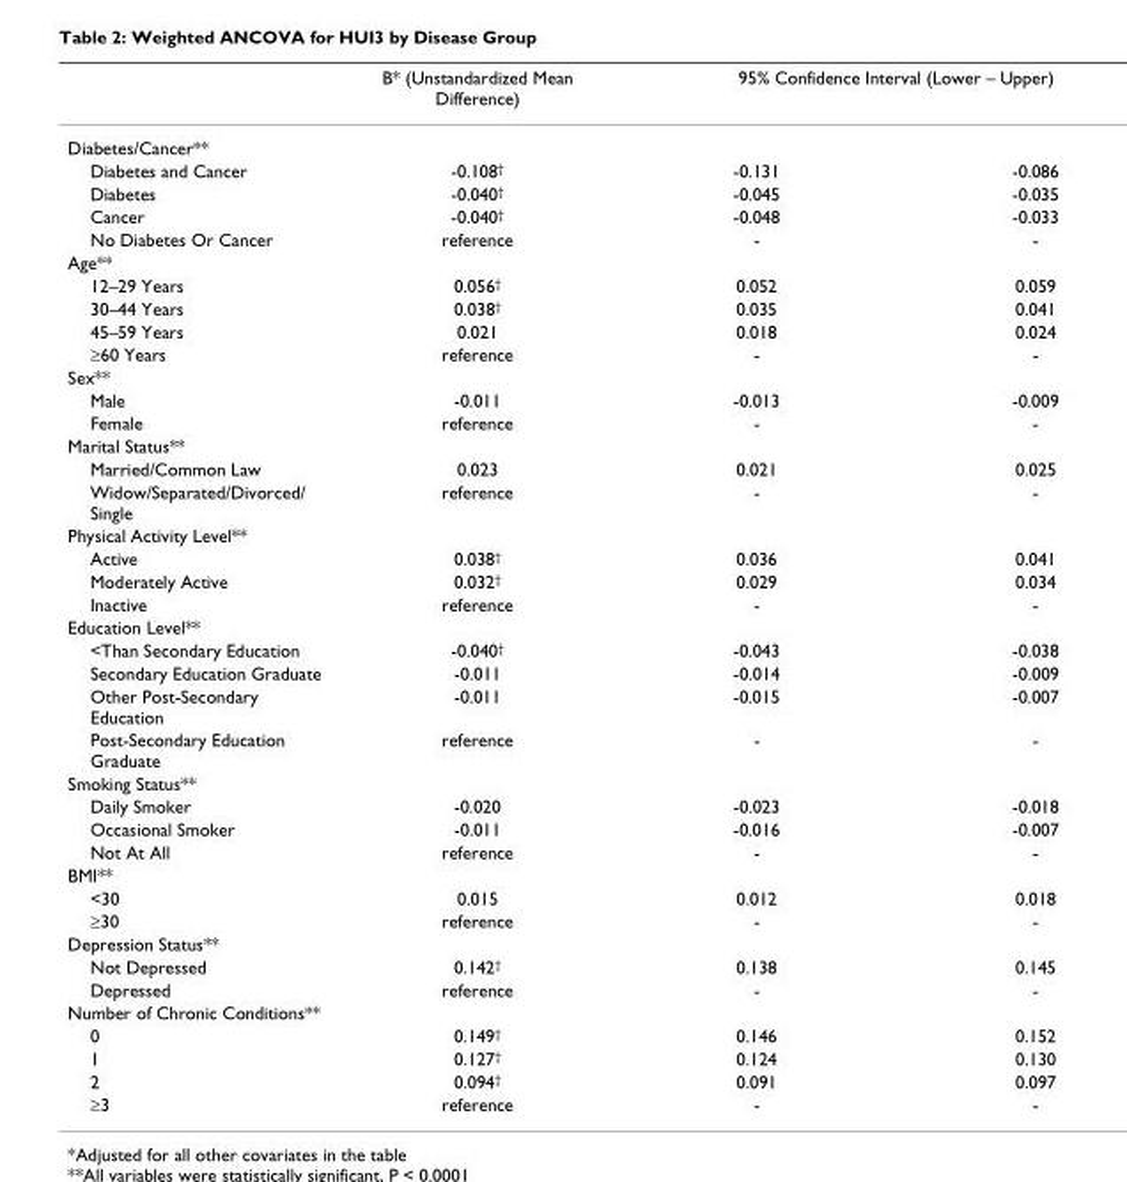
<table><thead><tr><td rowspan="2">Diabetes/Cancer**</td><td rowspan="2">B* (Unstandardized Mean Difference)</td><td colspan="2">95% Confidence Interval (Lower – Upper)</td></tr><tr><td></td><td></td></tr></thead><tbody><tr><td>Diabetes and Cancer</td><td>-0.108<sup>†</sup></td><td>-0.131</td><td>-0.086</td></tr><tr><td>Diabetes</td><td>-0.040<sup>†</sup></td><td>-0.045</td><td>-0.035</td></tr><tr><td>Cancer</td><td>-0.040<sup>†</sup></td><td>-0.048</td><td>-0.033</td></tr><tr><td>No Diabetes Or Cancer</td><td>reference</td><td>-</td><td>-</td></tr><tr><td colspan="4">Age**</td></tr><tr><td>12–29 Years</td><td>0.056<sup>†</sup></td><td>0.052</td><td>0.059</td></tr><tr><td>30–44 Years</td><td>0.038<sup>†</sup></td><td>0.035</td><td>0.041</td></tr><tr><td>45–59 Years</td><td>0.021</td><td>0.018</td><td>0.024</td></tr><tr><td>≥60 Years</td><td>reference</td><td>-</td><td>-</td></tr><tr><td colspan="4">Sex**</td></tr><tr><td>Male</td><td>-0.011</td><td>-0.013</td><td>-0.009</td></tr><tr><td>Female</td><td>reference</td><td>-</td><td>-</td></tr><tr><td colspan="4">Marital Status**</td></tr><tr><td>Married/Common Law</td><td>0.023</td><td>0.021</td><td>0.025</td></tr><tr><td>Widow/Separated/Divorced/ Single</td><td>reference</td><td>-</td><td>-</td></tr><tr><td colspan="4">Physical Activity Level**</td></tr><tr><td>Active</td><td>0.038<sup>†</sup></td><td>0.036</td><td>0.041</td></tr><tr><td>Moderately Active</td><td>0.032<sup>†</sup></td><td>0.029</td><td>0.034</td></tr><tr><td>Inactive</td><td>reference</td><td>-</td><td>-</td></tr><tr><td colspan="4">Education Level**</td></tr><tr><td>&lt;Than Secondary Education</td><td>-0.040<sup>†</sup></td><td>-0.043</td><td>-0.038</td></tr><tr><td>Secondary Education Graduate</td><td>-0.011</td><td>-0.014</td><td>-0.009</td></tr><tr><td>Other Post-Secondary Education</td><td>-0.011</td><td>-0.015</td><td>-0.007</td></tr><tr><td>Post-Secondary Education Graduate</td><td>reference</td><td>-</td><td>-</td></tr><tr><td colspan="4">Smoking Status**</td></tr><tr><td>Daily Smoker</td><td>-0.020</td><td>-0.023</td><td>-0.018</td></tr><tr><td>Occasional Smoker</td><td>-0.011</td><td>-0.016</td><td>-0.007</td></tr><tr><td>Not At All</td><td>reference</td><td>-</td><td>-</td></tr><tr><td colspan="4">BMI**</td></tr><tr><td>&lt;30</td><td>0.015</td><td>0.012</td><td>0.018</td></tr><tr><td>≥30</td><td>reference</td><td>-</td><td>-</td></tr><tr><td colspan="4">Depression Status**</td></tr><tr><td>Not Depressed</td><td>0.142<sup>†</sup></td><td>0.138</td><td>0.145</td></tr><tr><td>Depressed</td><td>reference</td><td>-</td><td>-</td></tr><tr><td colspan="4">Number of Chronic Conditions**</td></tr><tr><td>0</td><td>0.149<sup>†</sup></td><td>0.146</td><td>0.152</td></tr><tr><td>1</td><td>0.127<sup>†</sup></td><td>0.124</td><td>0.130</td></tr><tr><td>2</td><td>0.094<sup>†</sup></td><td>0.091</td><td>0.097</td></tr><tr><td>≥3</td><td>reference</td><td>-</td><td>-</td></tr></tbody></table>